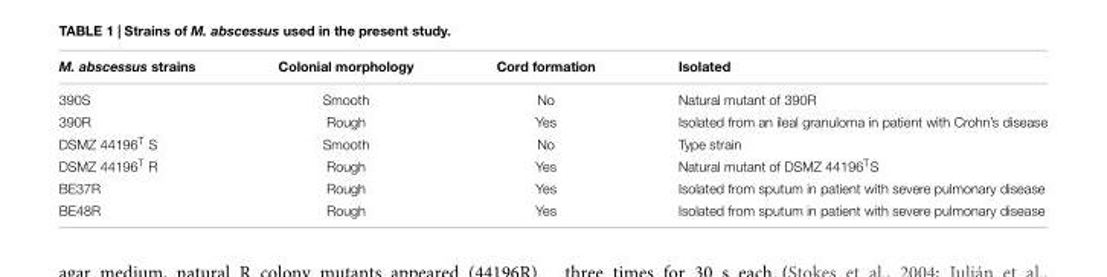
<table><thead><tr><td>M. abscessus strains</td><td>Colonial morphology</td><td>Cord formation</td><td>Isolated</td></tr></thead><tbody><tr><td>390S</td><td>Smooth</td><td>No</td><td>Natural mutant of 390R</td></tr><tr><td>390R</td><td>Rough</td><td>Yes</td><td>Isolated from an ileal granuloma in patient with Crohn’s disease</td></tr><tr><td>DSMZ 44196<sup>T</sup> S</td><td>Smooth</td><td>No</td><td>Type strain</td></tr><tr><td>DSMZ 44196<sup>T</sup> R</td><td>Rough</td><td>Yes</td><td>Natural mutant of DSMZ 44196<sup>T</sup>S</td></tr><tr><td>BE37R</td><td>Rough</td><td>Yes</td><td>Isolated from sputum in patient with severe pulmonary disease</td></tr><tr><td>BE48R</td><td>Rough</td><td>Yes</td><td>Isolated from sputum in patient with severe pulmonary disease</td></tr></tbody></table>